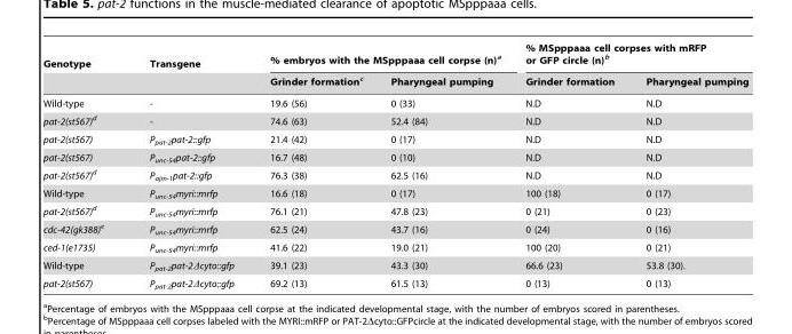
<table><thead><tr><td rowspan="2">Genotype</td><td rowspan="2">Transgene</td><td colspan="2">% embryos with the MSpppaaa cell corpse (n)<sup>a</sup></td><td colspan="2">% MSpppaaa cell corpses with mRFP or GFP circle (n)<sup>b</sup></td></tr><tr><td>Grinder formation<sup>c</sup></td><td>Pharyngeal pumping</td><td>Grinder formation</td><td>Pharyngeal pumping</td></tr></thead><tbody><tr><td>Wild-type</td><td>-</td><td>19.6 (56)</td><td>0 (33)</td><td>N.D</td><td>N.D</td></tr><tr><td>pat-2(st567)d</td><td>-</td><td>74.6 (63)</td><td>52.4 (84)</td><td>N.D</td><td>N.D</td></tr><tr><td>pat-2(st567)</td><td>P<sub>pat-2</sub>pat-2::gfp</td><td>21.4 (42)</td><td>0 (17)</td><td>N.D</td><td>N.D</td></tr><tr><td>pat-2(st567)</td><td>P<sub>unc-54</sub>pat-2::gfp</td><td>16.7 (48)</td><td>0 (10)</td><td>N.D</td><td>N.D</td></tr><tr><td>pat-2(st567)d</td><td>P<sub>ajm-1</sub>pat-2::gfp</td><td>76.3 (38)</td><td>62.5 (16)</td><td>N.D</td><td>N.D</td></tr><tr><td>Wild-type</td><td>P<sub>unc-54</sub>myri::mrfp</td><td>16.6 (18)</td><td>0 (17)</td><td>100 (18)</td><td>0 (17)</td></tr><tr><td>pat-2(st567)d</td><td>P<sub>unc-54</sub>myri::mrfp</td><td>76.1 (21)</td><td>47.8 (23)</td><td>0 (21)</td><td>0 (23)</td></tr><tr><td>cdc-42(gk388)e</td><td>P<sub>unc-54</sub>myri::mrfp</td><td>62.5 (24)</td><td>43.7 (16)</td><td>0 (24)</td><td>0 (16)</td></tr><tr><td>ced-1(e1735)</td><td>P<sub>unc-54</sub>myri::mrfp</td><td>41.6 (22)</td><td>19.0 (21)</td><td>100 (20)</td><td>0 (21)</td></tr><tr><td>Wild-type</td><td>P<sub>pat-2</sub>pat-2Δcyto::gfp</td><td>39.1 (23)</td><td>43.3 (30)</td><td>66.6 (23)</td><td>53.8 (30).</td></tr><tr><td>pat-2(st567)</td><td>P<sub>pat-2</sub>pat-2Δcyto::gfp</td><td>69.2 (13)</td><td>61.5 (13)</td><td>0 (13)</td><td>0 (13)</td></tr></tbody></table>